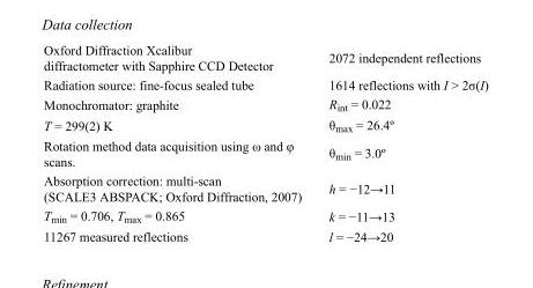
<table><tbody><tr><td>Oxford Diffraction Xcalibur diffractometer with Sapphire CCD Detector</td><td>2072 independent reflections</td></tr><tr><td>Radiation source: fine-focus sealed tube</td><td>1614 reflections with I &gt; 2σ(I)</td></tr><tr><td>Monochromator: graphite</td><td>R<sub>int</sub> = 0.022</td></tr><tr><td>T = 299(2) K</td><td>θ<sub>max</sub> = 26.4º</td></tr><tr><td>Rotation method data acquisition using ω and φ scans.</td><td>θ<sub>min</sub> = 3.0º</td></tr><tr><td>Absorption correction: multi-scan (SCALE3 ABSPACK; Oxford Diffraction, 2007)</td><td>h = −12→11</td></tr><tr><td>T<sub>min</sub> = 0.706, T<sub>max</sub> = 0.865</td><td>k = −11→13</td></tr><tr><td>11267 measured reflections</td><td>l = −24→20</td></tr></tbody></table>